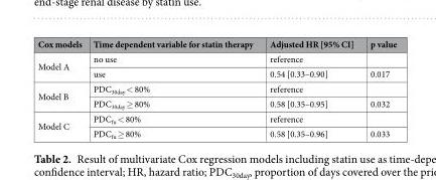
<table><thead><tr><td>Cox models</td><td>Time dependent variable for statin therapy</td><td>Adjusted HR [95% CI]</td><td>p value</td></tr></thead><tbody><tr><td rowspan="2">Model A</td><td>no use</td><td>reference</td><td></td></tr><tr><td>use</td><td>0.54 [0.33–0.90]</td><td>0.017</td></tr><tr><td rowspan="2">Model B</td><td>PDC<sub>30day</sub> &lt; 80%</td><td>reference</td><td></td></tr><tr><td>PDC<sub>30day</sub> ≥ 80%</td><td>0.58 [0.35–0.95]</td><td>0.032</td></tr><tr><td rowspan="2">Model C</td><td>PDC<sub>fu</sub> &lt; 80%</td><td>reference</td><td></td></tr><tr><td>PDC<sub>fu</sub> ≥ 80%</td><td>0.58 [0.35–0.96]</td><td>0.033</td></tr></tbody></table>